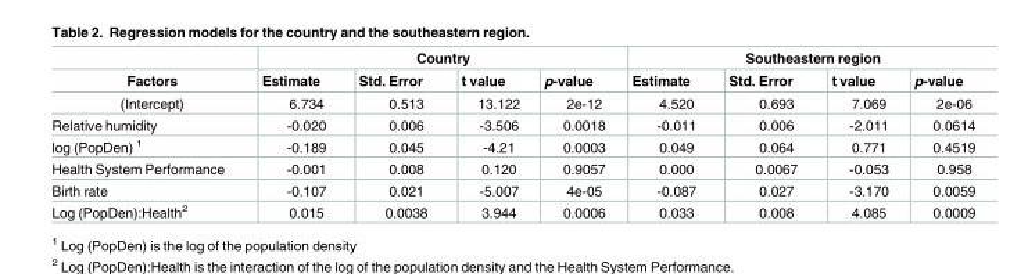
<table><thead><tr><td rowspan="2">Factors</td><td colspan="4">Country</td><td colspan="4">Southeastern region</td></tr><tr><td>Estimate</td><td>Std. Error</td><td>t value</td><td>p-value</td><td>Estimate</td><td>Std. Error</td><td>t value</td><td>p-value</td></tr></thead><tbody><tr><td>(Intercept)</td><td>6.734</td><td>0.513</td><td>13.122</td><td>2e-12</td><td>4.520</td><td>0.693</td><td>7.069</td><td>2e-06</td></tr><tr><td>Relative humidity</td><td>-0.020</td><td>0.006</td><td>-3.506</td><td>0.0018</td><td>-0.011</td><td>0.006</td><td>-2.011</td><td>0.0614</td></tr><tr><td>log (PopDen) <sup>1</sup></td><td>-0.189</td><td>0.045</td><td>-4.21</td><td>0.0003</td><td>0.049</td><td>0.064</td><td>0.771</td><td>0.4519</td></tr><tr><td>Health System Performance</td><td>-0.001</td><td>0.008</td><td>0.120</td><td>0.9057</td><td>0.000</td><td>0.0067</td><td>-0.053</td><td>0.958</td></tr><tr><td>Birth rate</td><td>-0.107</td><td>0.021</td><td>-5.007</td><td>4e-05</td><td>-0.087</td><td>0.027</td><td>-3.170</td><td>0.0059</td></tr><tr><td>Log (PopDen):Health<sup>2</sup></td><td>0.015</td><td>0.0038</td><td>3.944</td><td>0.0006</td><td>0.033</td><td>0.008</td><td>4.085</td><td>0.0009</td></tr></tbody></table>